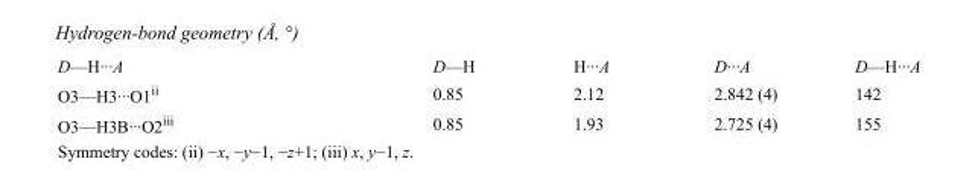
<table><tbody><tr><td>D—H···A</td><td>D—H</td><td>H···A</td><td>D···A</td><td>D—H···A</td></tr><tr><td>O3—H3···O1<sup>ii</sup></td><td>0.85</td><td>2.12</td><td>2.842 (4)</td><td>142</td></tr><tr><td>O3—H3B···O2<sup>iii</sup></td><td>0.85</td><td>1.93</td><td>2.725 (4)</td><td>155</td></tr></tbody></table>